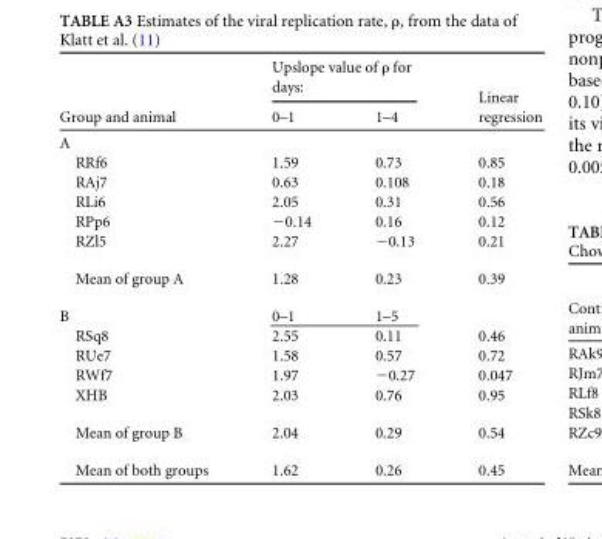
<table><thead><tr><td rowspan="2">Group and animal</td><td colspan="2">Upslope value of ρ for days:</td><td rowspan="2">Linear regression</td></tr><tr><td>0–1</td><td>1–4</td></tr></thead><tbody><tr><td colspan="4">A</td></tr><tr><td>RRf6</td><td>1.59</td><td>0.73</td><td>0.85</td></tr><tr><td>RAj7</td><td>0.63</td><td>0.108</td><td>0.18</td></tr><tr><td>RLi6</td><td>2.05</td><td>0.31</td><td>0.56</td></tr><tr><td>RPp6</td><td>−0.14</td><td>0.16</td><td>0.12</td></tr><tr><td>RZl5</td><td>2.27</td><td>−0.13</td><td>0.21</td></tr><tr><td>Mean of group A</td><td>1.28</td><td>0.23</td><td>0.39</td></tr><tr><td>B</td><td>0–1</td><td>1–5</td><td></td></tr><tr><td>RSq8</td><td>2.55</td><td>0.11</td><td>0.46</td></tr><tr><td>RUe7</td><td>1.58</td><td>0.57</td><td>0.72</td></tr><tr><td>RWf7</td><td>1.97</td><td>−0.27</td><td>0.047</td></tr><tr><td>XHB</td><td>2.03</td><td>0.76</td><td>0.95</td></tr><tr><td>Mean of group B</td><td>2.04</td><td>0.29</td><td>0.54</td></tr><tr><td>Mean of both groups</td><td>1.62</td><td>0.26</td><td>0.45</td></tr></tbody></table>